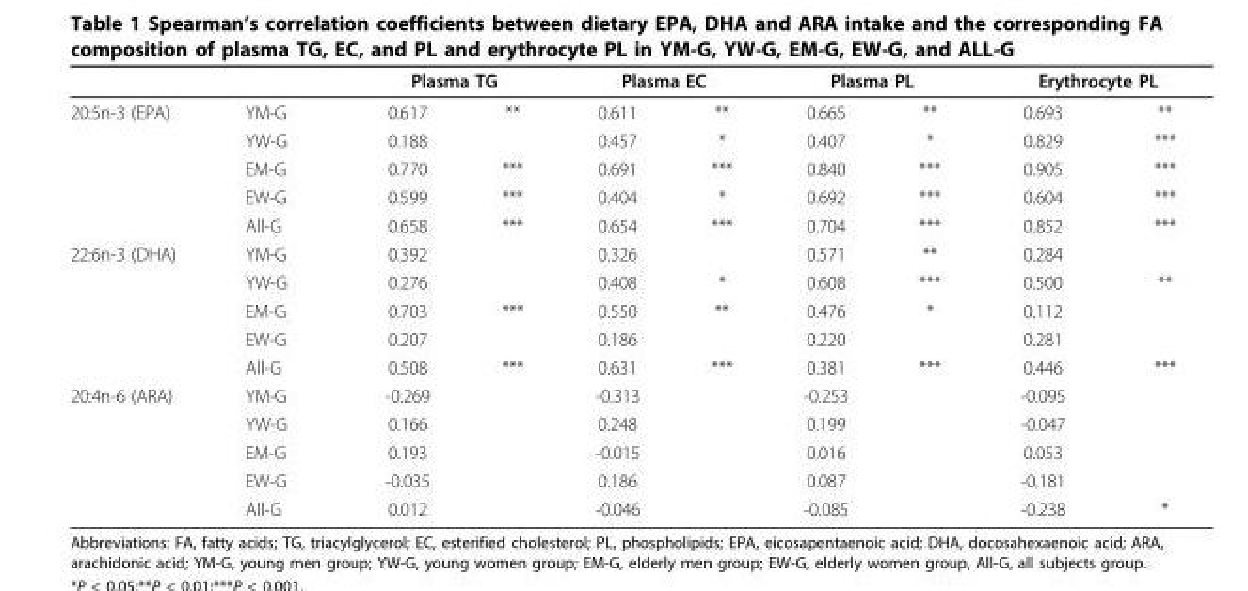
<table><thead><tr><td rowspan="2">20:5n-3 (EPA)</td><td rowspan="2">YM-G</td><td colspan="2">Plasma TG</td><td colspan="2">Plasma EC</td><td colspan="2">Plasma PL</td><td colspan="2">Erythrocyte PL</td></tr><tr><td>0.617</td><td>**</td><td>0.611</td><td>**</td><td>0.665</td><td>**</td><td>0.693</td><td>**</td></tr></thead><tbody><tr><td></td><td>YW-G</td><td>0.188</td><td></td><td>0.457</td><td>*</td><td>0.407</td><td>*</td><td>0.829</td><td>***</td></tr><tr><td></td><td>EM-G</td><td>0.770</td><td>***</td><td>0.691</td><td>***</td><td>0.840</td><td>***</td><td>0.905</td><td>***</td></tr><tr><td></td><td>EW-G</td><td>0.599</td><td>***</td><td>0.404</td><td>*</td><td>0.692</td><td>***</td><td>0.604</td><td>***</td></tr><tr><td></td><td>All-G</td><td>0.658</td><td>***</td><td>0.654</td><td>***</td><td>0.704</td><td>***</td><td>0.852</td><td>***</td></tr><tr><td rowspan="5">22:6n-3 (DHA)</td><td>YM-G</td><td>0.392</td><td></td><td>0.326</td><td></td><td>0.571</td><td>**</td><td>0.284</td><td></td></tr><tr><td>YW-G</td><td>0.276</td><td></td><td>0.408</td><td>*</td><td>0.608</td><td>***</td><td>0.500</td><td>**</td></tr><tr><td>EM-G</td><td>0.703</td><td>***</td><td>0.550</td><td>**</td><td>0.476</td><td>*</td><td>0.112</td><td></td></tr><tr><td>EW-G</td><td>0.207</td><td></td><td>0.186</td><td></td><td>0.220</td><td></td><td>0.281</td><td></td></tr><tr><td>All-G</td><td>0.508</td><td>***</td><td>0.631</td><td>***</td><td>0.381</td><td>***</td><td>0.446</td><td>***</td></tr><tr><td rowspan="5">20:4n-6 (ARA)</td><td>YM-G</td><td>-0.269</td><td></td><td>-0.313</td><td></td><td>-0.253</td><td></td><td>-0.095</td><td></td></tr><tr><td>YW-G</td><td>0.166</td><td></td><td>0.248</td><td></td><td>0.199</td><td></td><td>-0.047</td><td></td></tr><tr><td>EM-G</td><td>0.193</td><td></td><td>-0.015</td><td></td><td>0.016</td><td></td><td>0.053</td><td></td></tr><tr><td>EW-G</td><td>-0.035</td><td></td><td>0.186</td><td></td><td>0.087</td><td></td><td>-0.181</td><td></td></tr><tr><td>All-G</td><td>0.012</td><td></td><td>-0.046</td><td></td><td>-0.085</td><td></td><td>-0.238</td><td>*</td></tr></tbody></table>